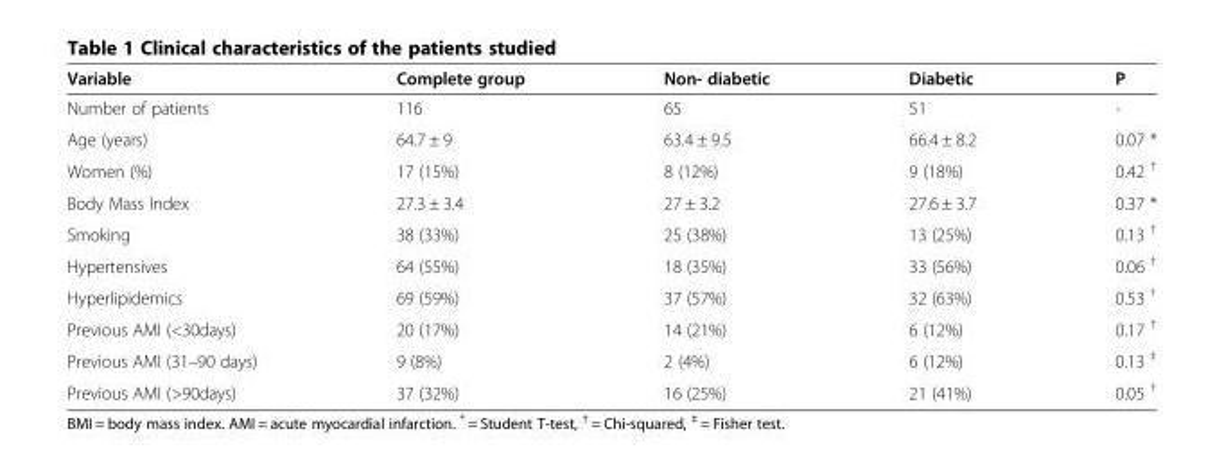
<table><thead><tr><td>Variable</td><td>Complete group</td><td>Non- diabetic</td><td>Diabetic</td><td>P</td></tr></thead><tbody><tr><td>Number of patients</td><td>116</td><td>65</td><td>51</td><td>-</td></tr><tr><td>Age (years)</td><td>64.7 ± 9</td><td>63.4 ± 9.5</td><td>66.4 ± 8.2</td><td>0.07 *</td></tr><tr><td>Women (%)</td><td>17 (15%)</td><td>8 (12%)</td><td>9 (18%)</td><td>0.42 <sup>†</sup></td></tr><tr><td>Body Mass Index</td><td>27.3 ± 3.4</td><td>27 ± 3.2</td><td>27.6 ± 3.7</td><td>0.37 *</td></tr><tr><td>Smoking</td><td>38 (33%)</td><td>25 (38%)</td><td>13 (25%)</td><td>0.13 <sup>†</sup></td></tr><tr><td>Hypertensives</td><td>64 (55%)</td><td>18 (35%)</td><td>33 (56%)</td><td>0.06 <sup>†</sup></td></tr><tr><td>Hyperlipidemics</td><td>69 (59%)</td><td>37 (57%)</td><td>32 (63%)</td><td>0.53 <sup>†</sup></td></tr><tr><td>Previous AMI (&lt;30days)</td><td>20 (17%)</td><td>14 (21%)</td><td>6 (12%)</td><td>0.17 <sup>†</sup></td></tr><tr><td>Previous AMI (31–90 days)</td><td>9 (8%)</td><td>2 (4%)</td><td>6 (12%)</td><td>0.13 <sup>‡</sup></td></tr><tr><td>Previous AMI (&gt;90days)</td><td>37 (32%)</td><td>16 (25%)</td><td>21 (41%)</td><td>0.05 <sup>†</sup></td></tr></tbody></table>